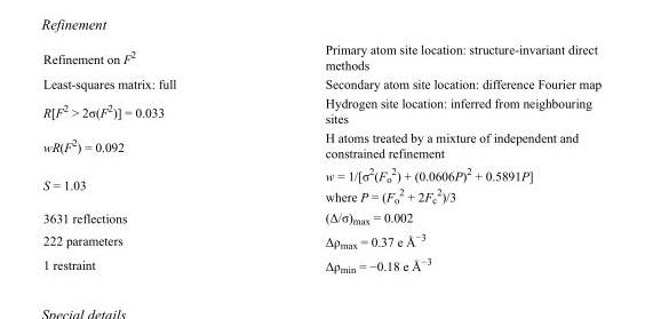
<table><tbody><tr><td>Refinement on F<sup>2</sup></td><td>Primary atom site location: structure-invariant direct methods</td></tr><tr><td>Least-squares matrix: full</td><td>Secondary atom site location: difference Fourier map</td></tr><tr><td>R[F<sup>2</sup> &gt; 2σ(F<sup>2</sup>)] = 0.033</td><td>Hydrogen site location: inferred from neighbouring sites</td></tr><tr><td>wR(F<sup>2</sup>) = 0.092</td><td>H atoms treated by a mixture of independent and constrained refinement</td></tr><tr><td>S = 1.03</td><td>w = 1/[σ<sup>2</sup>(F<sub>o</sub> <sup>2</sup>) + (0.0606P)<sup>2</sup> + 0.5891P] where P = (F<sub>o</sub> <sup>2</sup> + 2F<sub>c</sub> <sup>2</sup>)/3</td></tr><tr><td>3631 reflections</td><td>(Δ/σ)<sub>max</sub> = 0.002</td></tr><tr><td>222 parameters</td><td>Δρ<sub>max</sub> = 0.37 e Å<sup>−3</sup></td></tr><tr><td>1 restraint</td><td>Δρ<sub>min</sub> = −0.18 e Å<sup>−3</sup></td></tr></tbody></table>